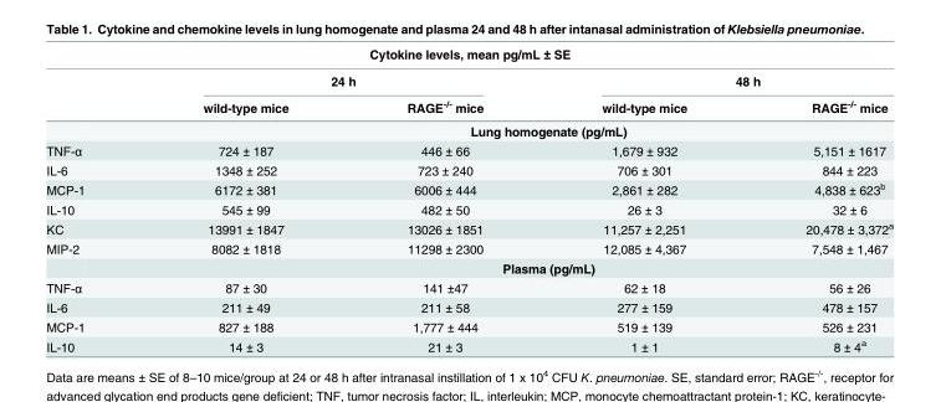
<table><thead><tr><td colspan="5">Cytokine levels, mean pg/mL ± SE</td></tr><tr><td rowspan="2"></td><td colspan="2">24 h</td><td colspan="2">48 h</td></tr><tr><td>wild-type mice</td><td>RAGE<sup>-/-</sup> mice</td><td>wild-type mice</td><td>RAGE<sup>-/-</sup> mice</td></tr></thead><tbody><tr><td></td><td colspan="4">Lung homogenate (pg/mL)</td></tr><tr><td>TNF-α</td><td>724 ± 187</td><td>446 ± 66</td><td>1,679 ± 932</td><td>5,151 ± 1617</td></tr><tr><td>IL-6</td><td>1348 ± 252</td><td>723 ± 240</td><td>706 ± 301</td><td>844 ± 223</td></tr><tr><td>MCP-1</td><td>6172 ± 381</td><td>6006 ± 444</td><td>2,861 ± 282</td><td>4,838 ± 623<sup>b</sup></td></tr><tr><td>IL-10</td><td>545 ± 99</td><td>482 ± 50</td><td>26 ± 3</td><td>32 ± 6</td></tr><tr><td>KC</td><td>13991 ± 1847</td><td>13026 ± 1851</td><td>11,257 ± 2,251</td><td>20,478 ± 3,372<sup>a</sup></td></tr><tr><td rowspan="2">MIP-2</td><td>8082 ± 1818</td><td>11298 ± 2300</td><td>12,085 ± 4,367</td><td>7,548 ± 1,467</td></tr><tr><td colspan="4">Plasma (pg/mL)</td></tr><tr><td>TNF-α</td><td>87 ± 30</td><td>141 ±47</td><td>62 ± 18</td><td>56 ± 26</td></tr><tr><td>IL-6</td><td>211 ± 49</td><td>211 ± 58</td><td>277 ± 159</td><td>478 ± 157</td></tr><tr><td>MCP-1</td><td>827 ± 188</td><td>1,777 ± 444</td><td>519 ± 139</td><td>526 ± 231</td></tr><tr><td>IL-10</td><td>14 ± 3</td><td>21 ± 3</td><td>1 ± 1</td><td>8 ± 4<sup>a</sup></td></tr></tbody></table>